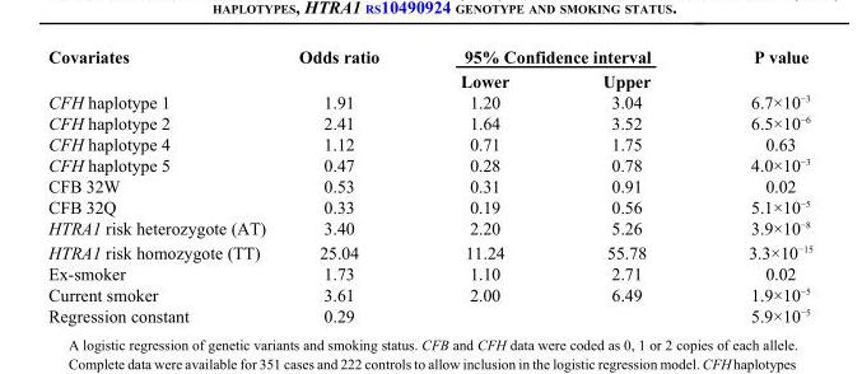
<table><thead><tr><td rowspan="2">Covariates</td><td rowspan="2">Odds ratio</td><td colspan="2">95% Confidence interval</td><td rowspan="2">P value</td></tr><tr><td>Lower</td><td>Upper</td></tr></thead><tbody><tr><td>CFH haplotype 1</td><td>1.91</td><td>1.20</td><td>3.04</td><td>6.7×10<sup>−3</sup></td></tr><tr><td>CFH haplotype 2</td><td>2.41</td><td>1.64</td><td>3.52</td><td>6.5×10<sup>−6</sup></td></tr><tr><td>CFH haplotype 4</td><td>1.12</td><td>0.71</td><td>1.75</td><td>0.63</td></tr><tr><td>CFH haplotype 5</td><td>0.47</td><td>0.28</td><td>0.78</td><td>4.0×10<sup>−3</sup></td></tr><tr><td>CFB 32W</td><td>0.53</td><td>0.31</td><td>0.91</td><td>0.02</td></tr><tr><td>CFB 32Q</td><td>0.33</td><td>0.19</td><td>0.56</td><td>5.1×10<sup>−5</sup></td></tr><tr><td>HTRA1 risk heterozygote (AT)</td><td>3.40</td><td>2.20</td><td>5.26</td><td>3.9×10<sup>−8</sup></td></tr><tr><td>HTRA1 risk homozygote (TT)</td><td>25.04</td><td>11.24</td><td>55.78</td><td>3.3×10<sup>−15</sup></td></tr><tr><td>Ex-smoker</td><td>1.73</td><td>1.10</td><td>2.71</td><td>0.02</td></tr><tr><td>Current smoker</td><td>3.61</td><td>2.00</td><td>6.49</td><td>1.9×10<sup>−5</sup></td></tr><tr><td>Regression constant</td><td>0.29</td><td></td><td></td><td>5.9×10<sup>−5</sup></td></tr></tbody></table>